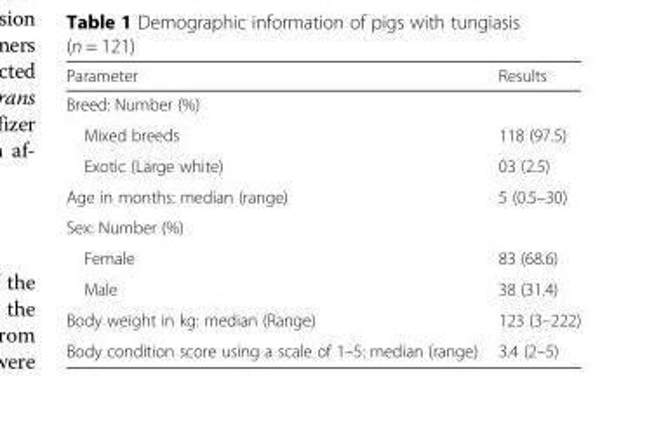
<table><thead><tr><td>Parameter</td><td>Results</td></tr></thead><tbody><tr><td colspan="2">Breed: Number (%)</td></tr><tr><td>Mixed breeds</td><td>118 (97.5)</td></tr><tr><td>Exotic (Large white)</td><td>03 (2.5)</td></tr><tr><td>Age in months: median (range)</td><td>5 (0.5–30)</td></tr><tr><td colspan="2">Sex: Number (%)</td></tr><tr><td>Female</td><td>83 (68.6)</td></tr><tr><td>Male</td><td>38 (31.4)</td></tr><tr><td>Body weight in kg: median (Range)</td><td>123 (3–222)</td></tr><tr><td>Body condition score using a scale of 1–5: median (range)</td><td>3.4 (2–5)</td></tr></tbody></table>